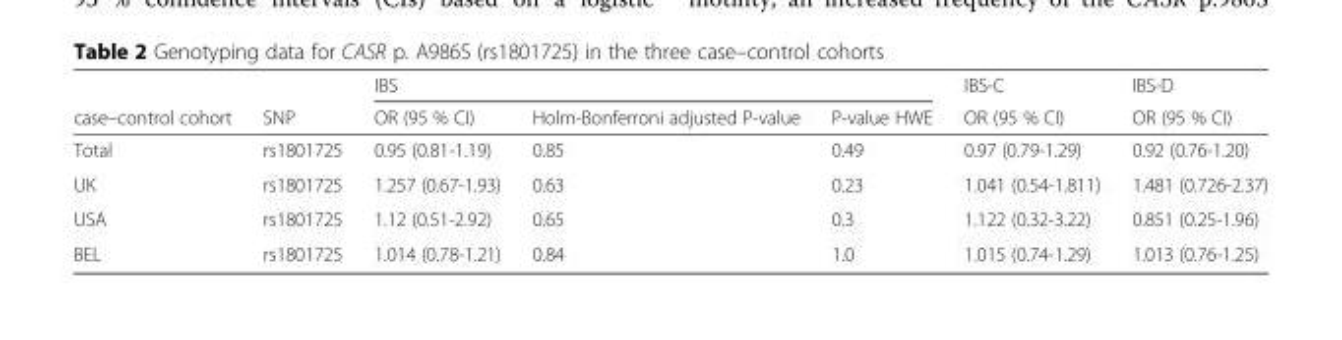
<table><thead><tr><td rowspan="2">case–control cohort</td><td rowspan="2">SNP</td><td colspan="3">IBS</td><td rowspan="2">IBS-C OR (95 % CI)</td><td rowspan="2">IBS-D OR (95 % CI)</td></tr><tr><td>OR (95 % CI)</td><td>Holm-Bonferroni adjusted P-value</td><td>P-value HWE</td></tr></thead><tbody><tr><td>Total</td><td>rs1801725</td><td>0.95 (0.81-1.19)</td><td>0.85</td><td>0.49</td><td>0.97 (0.79-1.29)</td><td>0.92 (0.76-1.20)</td></tr><tr><td>UK</td><td>rs1801725</td><td>1.257 (0.67-1.93)</td><td>0.63</td><td>0.23</td><td>1.041 (0.54-1.811)</td><td>1.481 (0.726-2.37)</td></tr><tr><td>USA</td><td>rs1801725</td><td>1.12 (0.51-2.92)</td><td>0.65</td><td>0.3</td><td>1.122 (0.32-3.22)</td><td>0.851 (0.25-1.96)</td></tr><tr><td>BEL</td><td>rs1801725</td><td>1.014 (0.78-1.21)</td><td>0.84</td><td>1.0</td><td>1.015 (0.74-1.29)</td><td>1.013 (0.76-1.25)</td></tr></tbody></table>